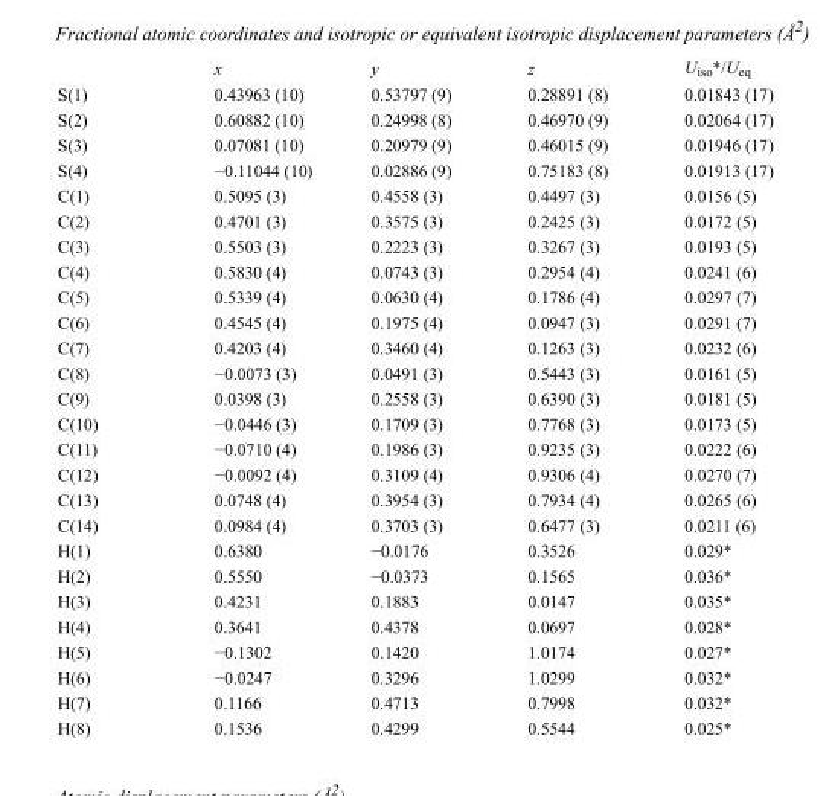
<table><thead><tr><td></td><td>x</td><td>y</td><td>z</td><td>U<sub>iso</sub>*/U<sub>eq</sub></td></tr></thead><tbody><tr><td>S(1)</td><td>0.43963 (10)</td><td>0.53797 (9)</td><td>0.28891 (8)</td><td>0.01843 (17)</td></tr><tr><td>S(2)</td><td>0.60882 (10)</td><td>0.24998 (8)</td><td>0.46970 (9)</td><td>0.02064 (17)</td></tr><tr><td>S(3)</td><td>0.07081 (10)</td><td>0.20979 (9)</td><td>0.46015 (9)</td><td>0.01946 (17)</td></tr><tr><td>S(4)</td><td>−0.11044 (10)</td><td>0.02886 (9)</td><td>0.75183 (8)</td><td>0.01913 (17)</td></tr><tr><td>C(1)</td><td>0.5095 (3)</td><td>0.4558 (3)</td><td>0.4497 (3)</td><td>0.0156 (5)</td></tr><tr><td>C(2)</td><td>0.4701 (3)</td><td>0.3575 (3)</td><td>0.2425 (3)</td><td>0.0172 (5)</td></tr><tr><td>C(3)</td><td>0.5503 (3)</td><td>0.2223 (3)</td><td>0.3267 (3)</td><td>0.0193 (5)</td></tr><tr><td>C(4)</td><td>0.5830 (4)</td><td>0.0743 (3)</td><td>0.2954 (4)</td><td>0.0241 (6)</td></tr><tr><td>C(5)</td><td>0.5339 (4)</td><td>0.0630 (4)</td><td>0.1786 (4)</td><td>0.0297 (7)</td></tr><tr><td>C(6)</td><td>0.4545 (4)</td><td>0.1975 (4)</td><td>0.0947 (3)</td><td>0.0291 (7)</td></tr><tr><td>C(7)</td><td>0.4203 (4)</td><td>0.3460 (4)</td><td>0.1263 (3)</td><td>0.0232 (6)</td></tr><tr><td>C(8)</td><td>−0.0073 (3)</td><td>0.0491 (3)</td><td>0.5443 (3)</td><td>0.0161 (5)</td></tr><tr><td>C(9)</td><td>0.0398 (3)</td><td>0.2558 (3)</td><td>0.6390 (3)</td><td>0.0181 (5)</td></tr><tr><td>C(10)</td><td>−0.0446 (3)</td><td>0.1709 (3)</td><td>0.7768 (3)</td><td>0.0173 (5)</td></tr><tr><td>C(11)</td><td>−0.0710 (4)</td><td>0.1986 (3)</td><td>0.9235 (3)</td><td>0.0222 (6)</td></tr><tr><td>C(12)</td><td>−0.0092 (4)</td><td>0.3109 (4)</td><td>0.9306 (4)</td><td>0.0270 (7)</td></tr><tr><td>C(13)</td><td>0.0748 (4)</td><td>0.3954 (3)</td><td>0.7934 (4)</td><td>0.0265 (6)</td></tr><tr><td>C(14)</td><td>0.0984 (4)</td><td>0.3703 (3)</td><td>0.6477 (3)</td><td>0.0211 (6)</td></tr><tr><td>H(1)</td><td>0.6380</td><td>−0.0176</td><td>0.3526</td><td>0.029*</td></tr><tr><td>H(2)</td><td>0.5550</td><td>−0.0373</td><td>0.1565</td><td>0.036*</td></tr><tr><td>H(3)</td><td>0.4231</td><td>0.1883</td><td>0.0147</td><td>0.035*</td></tr><tr><td>H(4)</td><td>0.3641</td><td>0.4378</td><td>0.0697</td><td>0.028*</td></tr><tr><td>H(5)</td><td>−0.1302</td><td>0.1420</td><td>1.0174</td><td>0.027*</td></tr><tr><td>H(6)</td><td>−0.0247</td><td>0.3296</td><td>1.0299</td><td>0.032*</td></tr><tr><td>H(7)</td><td>0.1166</td><td>0.4713</td><td>0.7998</td><td>0.032*</td></tr><tr><td>H(8)</td><td>0.1536</td><td>0.4299</td><td>0.5544</td><td>0.025*</td></tr></tbody></table>